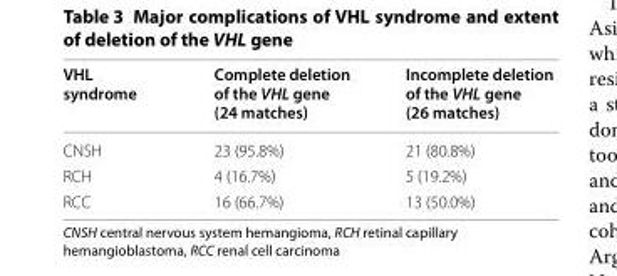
<table><thead><tr><td>VHL syndrome</td><td>Complete deletion of the VHL gene (24 matches)</td><td>Incomplete deletion of the VHL gene (26 matches)</td></tr></thead><tbody><tr><td>CNSH</td><td>23 (95.8%)</td><td>21 (80.8%)</td></tr><tr><td>RCH</td><td>4 (16.7%)</td><td>5 (19.2%)</td></tr><tr><td>RCC</td><td>16 (66.7%)</td><td>13 (50.0%)</td></tr></tbody></table>